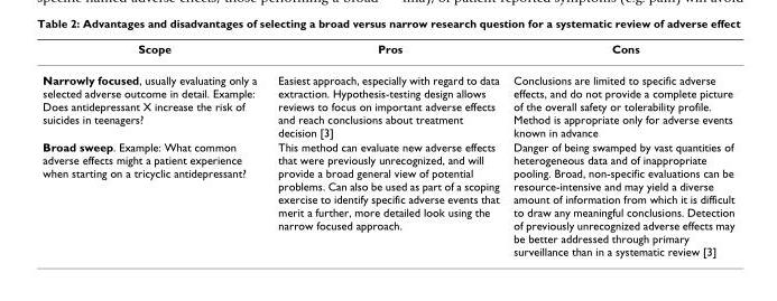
<table><thead><tr><td>Scope</td><td>Pros</td><td>Cons</td></tr></thead><tbody><tr><td>Narrowly focused, usually evaluating only a selected adverse outcome in detail. Example: Does antidepressant X increase the risk of suicides in teenagers?</td><td>Easiest approach, especially with regard to data extraction. Hypothesis-testing design allows reviews to focus on important adverse effects and reach conclusions about treatment decision [3]</td><td>Conclusions are limited to specific adverse effects, and do not provide a complete picture of the overall safety or tolerability profile. Method is appropriate only for adverse events known in advance</td></tr><tr><td>Broad sweep. Example: What common adverse effects might a patient experience when starting on a tricyclic antidepressant?</td><td>This method can evaluate new adverse effects that were previously unrecognized, and will provide a broad general view of potential problems. Can also be used as part of a scoping exercise to identify specific adverse events that merit a further, more detailed look using the narrow focused approach.</td><td>Danger of being swamped by vast quantities of heterogeneous data and of inappropriate pooling. Broad, non-specific evaluations can be resource-intensive and may yield a diverse amount of information from which it is difficult to draw any meaningful conclusions. Detection of previously unrecognized adverse effects may be better addressed through primary surveillance than in a systematic review [3]</td></tr></tbody></table>